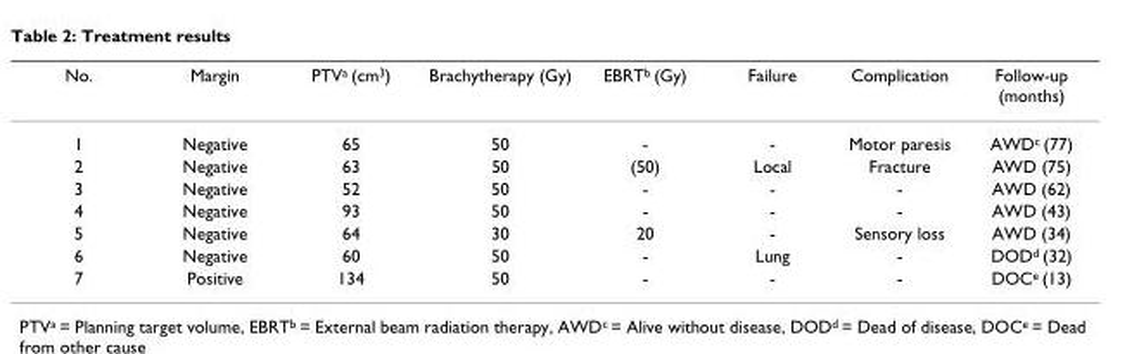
<table><thead><tr><td>No.</td><td>Margin</td><td>PTVa (cm3)</td><td>Brachytherapy (Gy)</td><td>EBRTb (Gy)</td><td>Failure</td><td>Complication</td><td>Follow-up (months)</td></tr></thead><tbody><tr><td>1</td><td>Negative</td><td>65</td><td>50</td><td>-</td><td>-</td><td>Motor paresis</td><td>AWDc (77)</td></tr><tr><td>2</td><td>Negative</td><td>63</td><td>50</td><td>(50)</td><td>Local</td><td>Fracture</td><td>AWD (75)</td></tr><tr><td>3</td><td>Negative</td><td>52</td><td>50</td><td>-</td><td>-</td><td>-</td><td>AWD (62)</td></tr><tr><td>4</td><td>Negative</td><td>93</td><td>50</td><td>-</td><td>-</td><td>-</td><td>AWD (43)</td></tr><tr><td>5</td><td>Negative</td><td>64</td><td>30</td><td>20</td><td>-</td><td>Sensory loss</td><td>AWD (34)</td></tr><tr><td>6</td><td>Negative</td><td>60</td><td>50</td><td>-</td><td>Lung</td><td>-</td><td>DODd (32)</td></tr><tr><td>7</td><td>Positive</td><td>134</td><td>50</td><td>-</td><td>-</td><td>-</td><td>DOCe (13)</td></tr></tbody></table>